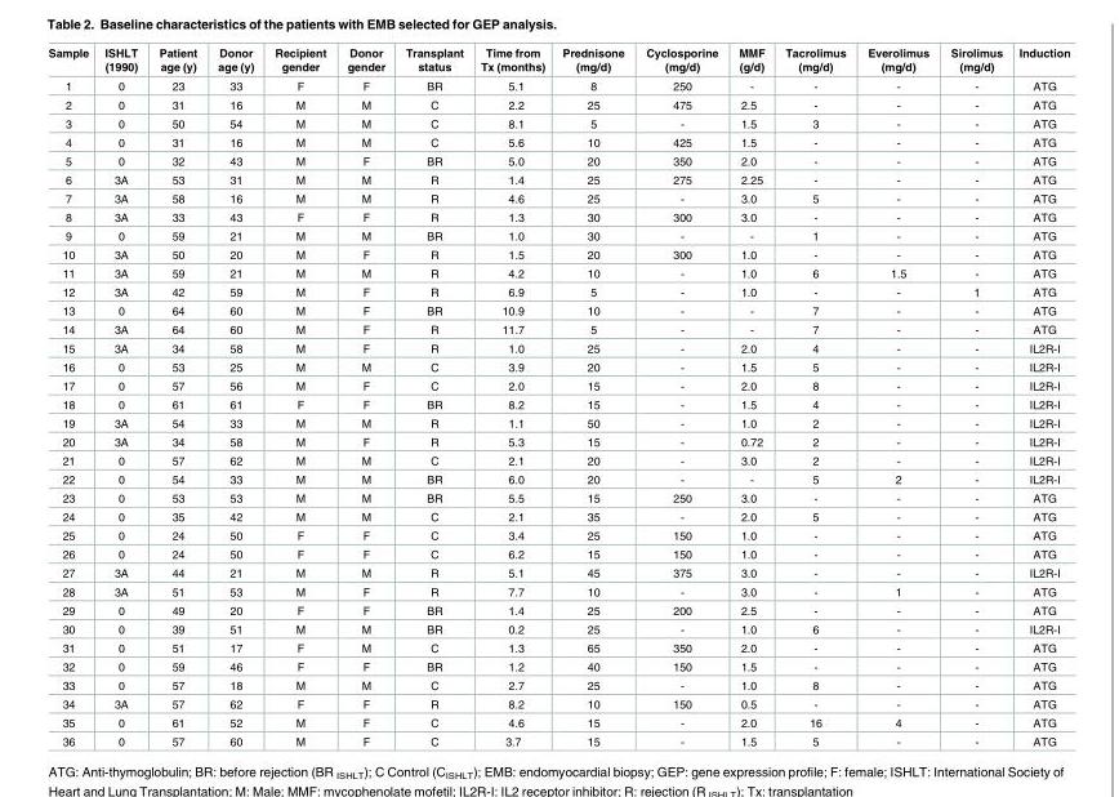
<table><thead><tr><td>Sample</td><td>ISHLT (1990)</td><td>Patient age (y)</td><td>Donor age (y)</td><td>Recipient gender</td><td>Donor gender</td><td>Transplant status</td><td>Time from Tx (months)</td><td>Prednisone (mg/d)</td><td>Cyclosporine (mg/d)</td><td>MMF (g/d)</td><td>Tacrolimus (mg/d)</td><td>Everolimus (mg/d)</td><td>Sirolimus (mg/d)</td><td>Induction</td></tr></thead><tbody><tr><td>1</td><td>0</td><td>23</td><td>33</td><td>F</td><td>F</td><td>BR</td><td>5.1</td><td>8</td><td>250</td><td>-</td><td>-</td><td>-</td><td>-</td><td>ATG</td></tr><tr><td>2</td><td>0</td><td>31</td><td>16</td><td>M</td><td>M</td><td>C</td><td>2.2</td><td>25</td><td>475</td><td>2.5</td><td>-</td><td>-</td><td>-</td><td>ATG</td></tr><tr><td>3</td><td>0</td><td>50</td><td>54</td><td>M</td><td>M</td><td>C</td><td>8.1</td><td>5</td><td>-</td><td>1.5</td><td>3</td><td>-</td><td>-</td><td>ATG</td></tr><tr><td>4</td><td>0</td><td>31</td><td>16</td><td>M</td><td>M</td><td>C</td><td>5.6</td><td>10</td><td>425</td><td>1.5</td><td>-</td><td>-</td><td>-</td><td>ATG</td></tr><tr><td>5</td><td>0</td><td>32</td><td>43</td><td>M</td><td>F</td><td>BR</td><td>5.0</td><td>20</td><td>350</td><td>2.0</td><td>-</td><td>-</td><td>-</td><td>ATG</td></tr><tr><td>6</td><td>3A</td><td>53</td><td>31</td><td>M</td><td>M</td><td>R</td><td>1.4</td><td>25</td><td>275</td><td>2.25</td><td>-</td><td>-</td><td>-</td><td>ATG</td></tr><tr><td>7</td><td>3A</td><td>58</td><td>16</td><td>M</td><td>M</td><td>R</td><td>4.6</td><td>25</td><td>-</td><td>3.0</td><td>5</td><td>-</td><td>-</td><td>ATG</td></tr><tr><td>8</td><td>3A</td><td>33</td><td>43</td><td>F</td><td>F</td><td>R</td><td>1.3</td><td>30</td><td>300</td><td>3.0</td><td>-</td><td>-</td><td>-</td><td>ATG</td></tr><tr><td>9</td><td>0</td><td>59</td><td>21</td><td>M</td><td>M</td><td>BR</td><td>1.0</td><td>30</td><td>-</td><td>-</td><td>1</td><td>-</td><td>-</td><td>ATG</td></tr><tr><td>10</td><td>3A</td><td>50</td><td>20</td><td>M</td><td>F</td><td>R</td><td>1.5</td><td>20</td><td>300</td><td>1.0</td><td>-</td><td>-</td><td>-</td><td>ATG</td></tr><tr><td>11</td><td>3A</td><td>59</td><td>21</td><td>M</td><td>M</td><td>R</td><td>4.2</td><td>10</td><td>-</td><td>1.0</td><td>6</td><td>1.5</td><td>-</td><td>ATG</td></tr><tr><td>12</td><td>3A</td><td>42</td><td>59</td><td>M</td><td>F</td><td>R</td><td>6.9</td><td>5</td><td>-</td><td>1.0</td><td>-</td><td>-</td><td>1</td><td>ATG</td></tr><tr><td>13</td><td>0</td><td>64</td><td>60</td><td>M</td><td>F</td><td>BR</td><td>10.9</td><td>10</td><td>-</td><td>-</td><td>7</td><td>-</td><td>-</td><td>ATG</td></tr><tr><td>14</td><td>3A</td><td>64</td><td>60</td><td>M</td><td>F</td><td>R</td><td>11.7</td><td>5</td><td>-</td><td>-</td><td>7</td><td>-</td><td>-</td><td>ATG</td></tr><tr><td>15</td><td>3A</td><td>34</td><td>58</td><td>M</td><td>F</td><td>R</td><td>1.0</td><td>25</td><td>-</td><td>2.0</td><td>4</td><td>-</td><td>-</td><td>IL2R-I</td></tr><tr><td>16</td><td>0</td><td>53</td><td>25</td><td>M</td><td>M</td><td>C</td><td>3.9</td><td>20</td><td>-</td><td>1.5</td><td>5</td><td>-</td><td>-</td><td>IL2R-I</td></tr><tr><td>17</td><td>0</td><td>57</td><td>56</td><td>M</td><td>F</td><td>C</td><td>2.0</td><td>15</td><td>-</td><td>2.0</td><td>8</td><td>-</td><td>-</td><td>IL2R-I</td></tr><tr><td>18</td><td>0</td><td>61</td><td>61</td><td>F</td><td>F</td><td>BR</td><td>8.2</td><td>15</td><td>-</td><td>1.5</td><td>4</td><td>-</td><td>-</td><td>IL2R-I</td></tr><tr><td>19</td><td>3A</td><td>54</td><td>33</td><td>M</td><td>M</td><td>R</td><td>1.1</td><td>50</td><td>-</td><td>1.0</td><td>2</td><td>-</td><td>-</td><td>IL2R-I</td></tr><tr><td>20</td><td>3A</td><td>34</td><td>58</td><td>M</td><td>F</td><td>R</td><td>5.3</td><td>15</td><td>-</td><td>0.72</td><td>2</td><td>-</td><td>-</td><td>IL2R-I</td></tr><tr><td>21</td><td>0</td><td>57</td><td>62</td><td>M</td><td>M</td><td>C</td><td>2.1</td><td>20</td><td>-</td><td>3.0</td><td>2</td><td>-</td><td>-</td><td>IL2R-I</td></tr><tr><td>22</td><td>0</td><td>54</td><td>33</td><td>M</td><td>M</td><td>BR</td><td>6.0</td><td>20</td><td>-</td><td>-</td><td>5</td><td>2</td><td>-</td><td>IL2R-I</td></tr><tr><td>23</td><td>0</td><td>53</td><td>53</td><td>M</td><td>M</td><td>BR</td><td>5.5</td><td>15</td><td>250</td><td>3.0</td><td>-</td><td>-</td><td>-</td><td>ATG</td></tr><tr><td>24</td><td>0</td><td>35</td><td>42</td><td>M</td><td>M</td><td>C</td><td>2.1</td><td>35</td><td>-</td><td>2.0</td><td>5</td><td>-</td><td>-</td><td>ATG</td></tr><tr><td>25</td><td>0</td><td>24</td><td>50</td><td>F</td><td>F</td><td>C</td><td>3.4</td><td>25</td><td>150</td><td>1.0</td><td>-</td><td>-</td><td>-</td><td>ATG</td></tr><tr><td>26</td><td>0</td><td>24</td><td>50</td><td>F</td><td>F</td><td>C</td><td>6.2</td><td>15</td><td>150</td><td>1.0</td><td>-</td><td>-</td><td>-</td><td>ATG</td></tr><tr><td>27</td><td>3A</td><td>44</td><td>21</td><td>M</td><td>M</td><td>R</td><td>5.1</td><td>45</td><td>375</td><td>3.0</td><td>-</td><td>-</td><td>-</td><td>IL2R-I</td></tr><tr><td>28</td><td>3A</td><td>51</td><td>53</td><td>M</td><td>F</td><td>R</td><td>7.7</td><td>10</td><td>-</td><td>3.0</td><td>-</td><td>1</td><td>-</td><td>ATG</td></tr><tr><td>29</td><td>0</td><td>49</td><td>20</td><td>F</td><td>F</td><td>BR</td><td>1.4</td><td>25</td><td>200</td><td>2.5</td><td>-</td><td>-</td><td>-</td><td>ATG</td></tr><tr><td>30</td><td>0</td><td>39</td><td>51</td><td>M</td><td>M</td><td>BR</td><td>0.2</td><td>25</td><td>-</td><td>1.0</td><td>6</td><td>-</td><td>-</td><td>IL2R-I</td></tr><tr><td>31</td><td>0</td><td>51</td><td>17</td><td>F</td><td>M</td><td>C</td><td>1.3</td><td>65</td><td>350</td><td>2.0</td><td>-</td><td>-</td><td>-</td><td>ATG</td></tr><tr><td>32</td><td>0</td><td>59</td><td>46</td><td>F</td><td>F</td><td>BR</td><td>1.2</td><td>40</td><td>150</td><td>1.5</td><td>-</td><td>-</td><td>-</td><td>ATG</td></tr><tr><td>33</td><td>0</td><td>57</td><td>18</td><td>M</td><td>M</td><td>C</td><td>2.7</td><td>25</td><td>-</td><td>1.0</td><td>8</td><td>-</td><td>-</td><td>ATG</td></tr><tr><td>34</td><td>3A</td><td>57</td><td>62</td><td>F</td><td>F</td><td>R</td><td>8.2</td><td>10</td><td>150</td><td>0.5</td><td>-</td><td>-</td><td>-</td><td>ATG</td></tr><tr><td>35</td><td>0</td><td>61</td><td>52</td><td>M</td><td>F</td><td>C</td><td>4.6</td><td>15</td><td>-</td><td>2.0</td><td>16</td><td>4</td><td>-</td><td>ATG</td></tr><tr><td>36</td><td>0</td><td>57</td><td>60</td><td>M</td><td>F</td><td>C</td><td>3.7</td><td>15</td><td>-</td><td>1.5</td><td>5</td><td>-</td><td>-</td><td>ATG</td></tr></tbody></table>